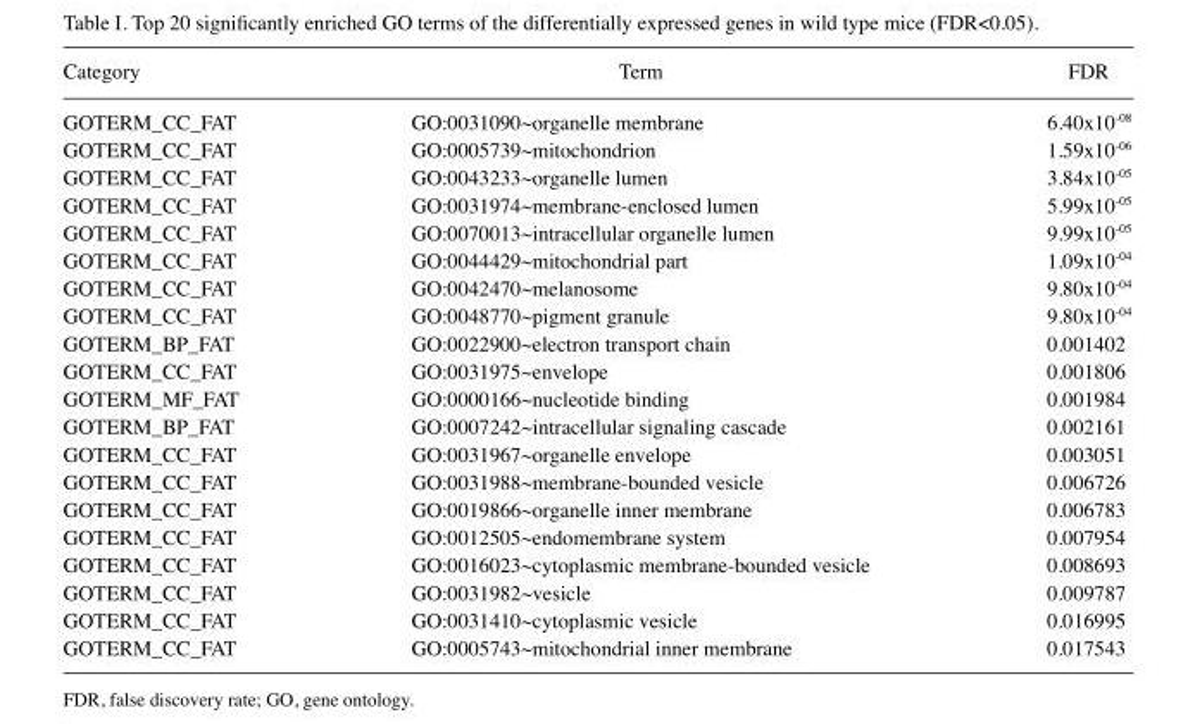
<table><thead><tr><td>Category</td><td>Term</td><td>FDR</td></tr></thead><tbody><tr><td>GOTERM_CC_FAT</td><td>GO:0031090~organelle membrane</td><td>6.40x10-08</td></tr><tr><td>GOTERM_CC_FAT</td><td>GO:0005739~mitochondrion</td><td>1.59x10-06</td></tr><tr><td>GOTERM_CC_FAT</td><td>GO:0043233~organelle lumen</td><td>3.84x10-05</td></tr><tr><td>GOTERM_CC_FAT</td><td>GO:0031974~membrane‑enclosed lumen</td><td>5.99x10-05</td></tr><tr><td>GOTERM_CC_FAT</td><td>GO:0070013~intracellular organelle lumen</td><td>9.99x10-05</td></tr><tr><td>GOTERM_CC_FAT</td><td>GO:0044429~mitochondrial part</td><td>1.09x10‑04</td></tr><tr><td>GOTERM_CC_FAT</td><td>GO:0042470~melanosome</td><td>9.80x10‑04</td></tr><tr><td>GOTERM_CC_FAT</td><td>GO:0048770~pigment granule</td><td>9.80x10‑04</td></tr><tr><td>GOTERM_BP_FAT</td><td>GO:0022900~electron transport chain</td><td>0.001402</td></tr><tr><td>GOTERM_CC_FAT</td><td>GO:0031975~envelope</td><td>0.001806</td></tr><tr><td>GOTERM_MF_FAT</td><td>GO:0000166~nucleotide binding</td><td>0.001984</td></tr><tr><td>GOTERM_BP_FAT</td><td>GO:0007242~intracellular signaling cascade</td><td>0.002161</td></tr><tr><td>GOTERM_CC_FAT</td><td>GO:0031967~organelle envelope</td><td>0.003051</td></tr><tr><td>GOTERM_CC_FAT</td><td>GO:0031988~membrane‑bounded vesicle</td><td>0.006726</td></tr><tr><td>GOTERM_CC_FAT</td><td>GO:0019866~organelle inner membrane</td><td>0.006783</td></tr><tr><td>GOTERM_CC_FAT</td><td>GO:0012505~endomembrane system</td><td>0.007954</td></tr><tr><td>GOTERM_CC_FAT</td><td>GO:0016023~cytoplasmic membrane‑bounded vesicle</td><td>0.008693</td></tr><tr><td>GOTERM_CC_FAT</td><td>GO:0031982~vesicle</td><td>0.009787</td></tr><tr><td>GOTERM_CC_FAT</td><td>GO:0031410~cytoplasmic vesicle</td><td>0.016995</td></tr><tr><td>GOTERM_CC_FAT</td><td>GO:0005743~mitochondrial inner membrane</td><td>0.017543</td></tr></tbody></table>